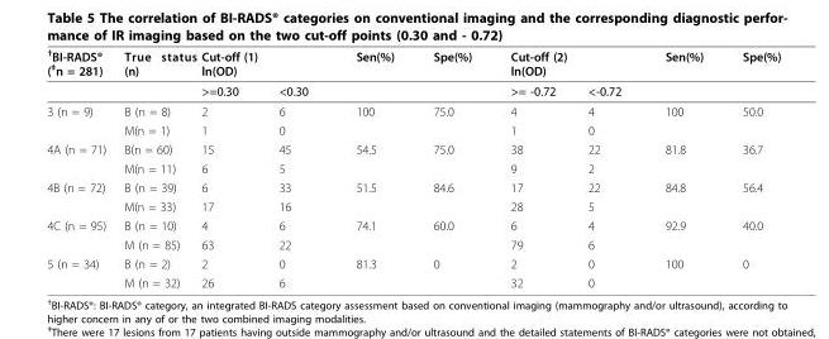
<table><thead><tr><td rowspan="2"><sup>†</sup>BI-RADS<sup>®</sup> (<sup>‡</sup>n = 281)</td><td rowspan="2">True status (n)</td><td colspan="2">Cut-off (1) ln(OD)</td><td rowspan="2">Sen(%)</td><td rowspan="2">Spe(%)</td><td colspan="2">Cut-off (2) ln(OD)</td><td rowspan="2">Sen(%)</td><td rowspan="2">Spe(%)</td></tr><tr><td>&gt;=0.30</td><td>&lt;0.30</td><td>&gt;= -0.72</td><td>&lt;-0.72</td></tr></thead><tbody><tr><td rowspan="2">3 (n = 9)</td><td>B (n = 8)</td><td>2</td><td>6</td><td>100</td><td>75.0</td><td>4</td><td>4</td><td>100</td><td>50.0</td></tr><tr><td>M(n = 1)</td><td>1</td><td>0</td><td></td><td></td><td>1</td><td>0</td><td></td><td></td></tr><tr><td rowspan="2">4A (n = 71)</td><td>B(n = 60)</td><td>15</td><td>45</td><td>54.5</td><td>75.0</td><td>38</td><td>22</td><td>81.8</td><td>36.7</td></tr><tr><td>M(n = 11)</td><td>6</td><td>5</td><td></td><td></td><td>9</td><td>2</td><td></td><td></td></tr><tr><td rowspan="2">4B (n = 72)</td><td>B (n = 39)</td><td>6</td><td>33</td><td>51.5</td><td>84.6</td><td>17</td><td>22</td><td>84.8</td><td>56.4</td></tr><tr><td>M(n = 33)</td><td>17</td><td>16</td><td></td><td></td><td>28</td><td>5</td><td></td><td></td></tr><tr><td rowspan="2">4C (n = 95)</td><td>B (n = 10)</td><td>4</td><td>6</td><td>74.1</td><td>60.0</td><td>6</td><td>4</td><td>92.9</td><td>40.0</td></tr><tr><td>M (n = 85)</td><td>63</td><td>22</td><td></td><td></td><td>79</td><td>6</td><td></td><td></td></tr><tr><td rowspan="2">5 (n = 34)</td><td>B (n = 2)</td><td>2</td><td>0</td><td>81.3</td><td>0</td><td>2</td><td>0</td><td>100</td><td>0</td></tr><tr><td>M (n = 32)</td><td>26</td><td>6</td><td></td><td></td><td>32</td><td>0</td><td></td><td></td></tr></tbody></table>